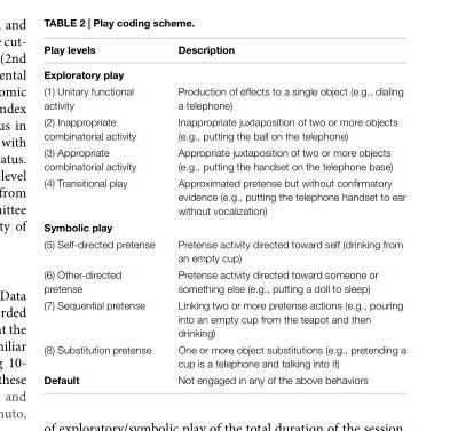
<table><thead><tr><td>Play levels</td><td>Description</td></tr></thead><tbody><tr><td colspan="2">Exploratory play</td></tr><tr><td>(1) Unitary functional activity</td><td>Production of effects to a single object (e.g., dialing a telephone)</td></tr><tr><td>(2) Inappropriate combinatorial activity</td><td>Inappropriate juxtaposition of two or more objects (e.g., putting the ball on the telephone)</td></tr><tr><td>(3) Appropriate combinatorial activity</td><td>Appropriate juxtaposition of two or more objects (e.g., putting the handset on the telephone base)</td></tr><tr><td>(4) Transitional play</td><td>Approximated pretense but without confirmatory evidence (e.g., putting the telephone handset to ear without vocalization)</td></tr><tr><td colspan="2">Symbolic play</td></tr><tr><td>(5) Self-directed pretense</td><td>Pretense activity directed toward self (drinking from an empty cup)</td></tr><tr><td>(6) Other-directed pretense</td><td>Pretense activity directed toward someone or something else (e.g., putting a doll to sleep)</td></tr><tr><td>(7) Sequential pretense</td><td>Linking two or more pretense actions (e.g., pouring into an empty cup from the teapot and then drinking)</td></tr><tr><td>(8) Substitution pretense</td><td>One or more object substitutions (e.g., pretending a cup is a telephone and talking into it)</td></tr><tr><td>Default</td><td>Not engaged in any of the above behaviors</td></tr></tbody></table>